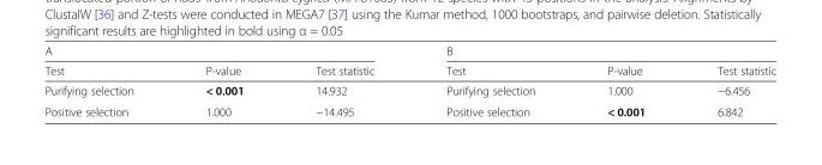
<table><thead><tr><td colspan="3">A</td><td colspan="3">B</td></tr><tr><td>Test</td><td>P-value</td><td>Test statistic</td><td>Test</td><td>P-value</td><td>Test statistic</td></tr></thead><tbody><tr><td>Purifying selection</td><td>&lt; 0.001</td><td>14.932</td><td>Purifying selection</td><td>1.000</td><td>−6.456</td></tr><tr><td>Positive selection</td><td>1.000</td><td>−14.495</td><td>Positive selection</td><td>&lt; 0.001</td><td>6.842</td></tr></tbody></table>